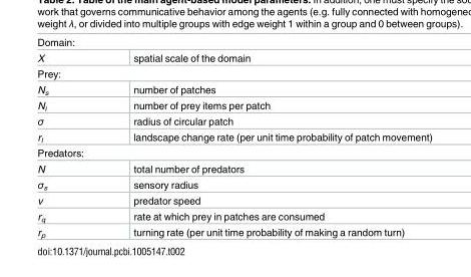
<table><tbody><tr><td colspan="2">Domain:</td></tr><tr><td>X</td><td>spatial scale of the domain</td></tr><tr><td colspan="2">Prey:</td></tr><tr><td>N<sub>s</sub></td><td>number of patches</td></tr><tr><td>N<sub>i</sub></td><td>number of prey items per patch</td></tr><tr><td>σ</td><td>radius of circular patch</td></tr><tr><td>r<sub>l</sub></td><td>landscape change rate (per unit time probability of patch movement)</td></tr><tr><td colspan="2">Predators:</td></tr><tr><td>N</td><td>total number of predators</td></tr><tr><td>σ<sub>s</sub></td><td>sensory radius</td></tr><tr><td>v</td><td>predator speed</td></tr><tr><td>r<sub>q</sub></td><td>rate at which prey in patches are consumed</td></tr><tr><td>r<sub>p</sub></td><td>turning rate (per unit time probability of making a random turn)</td></tr></tbody></table>